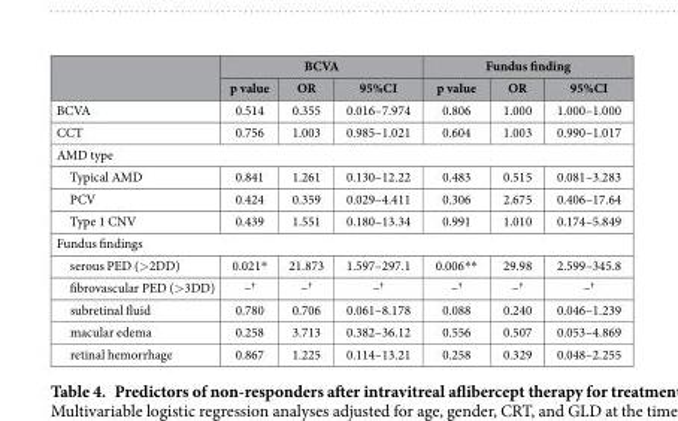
<table><thead><tr><td rowspan="2"></td><td colspan="3">BCVA</td><td colspan="3">Fundus finding</td></tr><tr><td>p value</td><td>OR</td><td>95%CI</td><td>p value</td><td>OR</td><td>95%CI</td></tr></thead><tbody><tr><td>BCVA</td><td>0.514</td><td>0.355</td><td>0.016–7.974</td><td>0.806</td><td>1.000</td><td>1.000–1.000</td></tr><tr><td>CCT</td><td>0.756</td><td>1.003</td><td>0.985–1.021</td><td>0.604</td><td>1.003</td><td>0.990–1.017</td></tr><tr><td colspan="7">AMD type</td></tr><tr><td>Typical AMD</td><td>0.841</td><td>1.261</td><td>0.130–12.22</td><td>0.483</td><td>0.515</td><td>0.081–3.283</td></tr><tr><td>PCV</td><td>0.424</td><td>0.359</td><td>0.029–4.411</td><td>0.306</td><td>2.675</td><td>0.406–17.64</td></tr><tr><td>Type 1 CNV</td><td>0.439</td><td>1.551</td><td>0.180–13.34</td><td>0.991</td><td>1.010</td><td>0.174–5.849</td></tr><tr><td colspan="7">Fundus findings</td></tr><tr><td>serous PED (&gt; 2DD)</td><td>0.021*</td><td>21.873</td><td>1.597–297.1</td><td>0.006* *</td><td>29.98</td><td>2.599–345.8</td></tr><tr><td>fibrovascular PED (&gt; 3DD)</td><td>–<sup>†</sup></td><td>–<sup>†</sup></td><td>–<sup>†</sup></td><td>–<sup>†</sup></td><td>–<sup>†</sup></td><td>–<sup>†</sup></td></tr><tr><td>subretinal fluid</td><td>0.780</td><td>0.706</td><td>0.061–8.178</td><td>0.088</td><td>0.240</td><td>0.046–1.239</td></tr><tr><td>macular edema</td><td>0.258</td><td>3.713</td><td>0.382–36.12</td><td>0.556</td><td>0.507</td><td>0.053–4.869</td></tr><tr><td>retinal hemorrhage</td><td>0.867</td><td>1.225</td><td>0.114–13.21</td><td>0.258</td><td>0.329</td><td>0.048–2.255</td></tr></tbody></table>